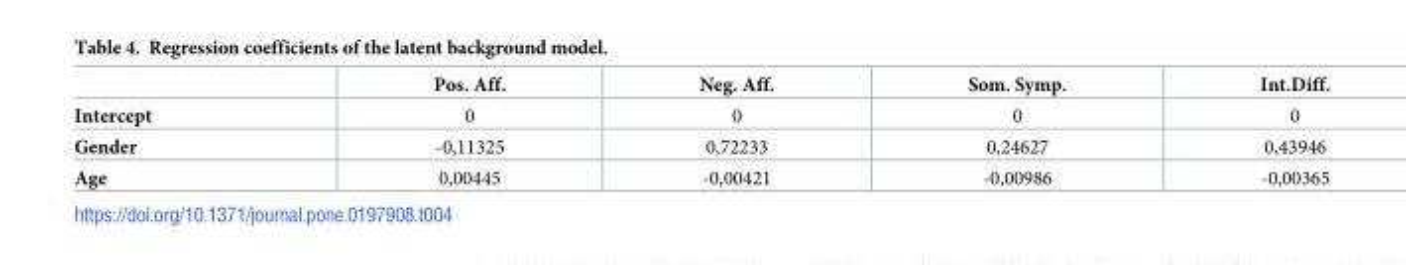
<table><thead><tr><td></td><td>Pos. Aff.</td><td>Neg. Aff.</td><td>Som. Symp.</td><td>Int.Diff.</td></tr></thead><tbody><tr><td>Intercept</td><td>0</td><td>0</td><td>0</td><td>0</td></tr><tr><td>Gender</td><td>-0,11325</td><td>0,72233</td><td>0,24627</td><td>0,43946</td></tr><tr><td>Age</td><td>0,00445</td><td>-0,00421</td><td>-0,00986</td><td>-0,00365</td></tr></tbody></table>